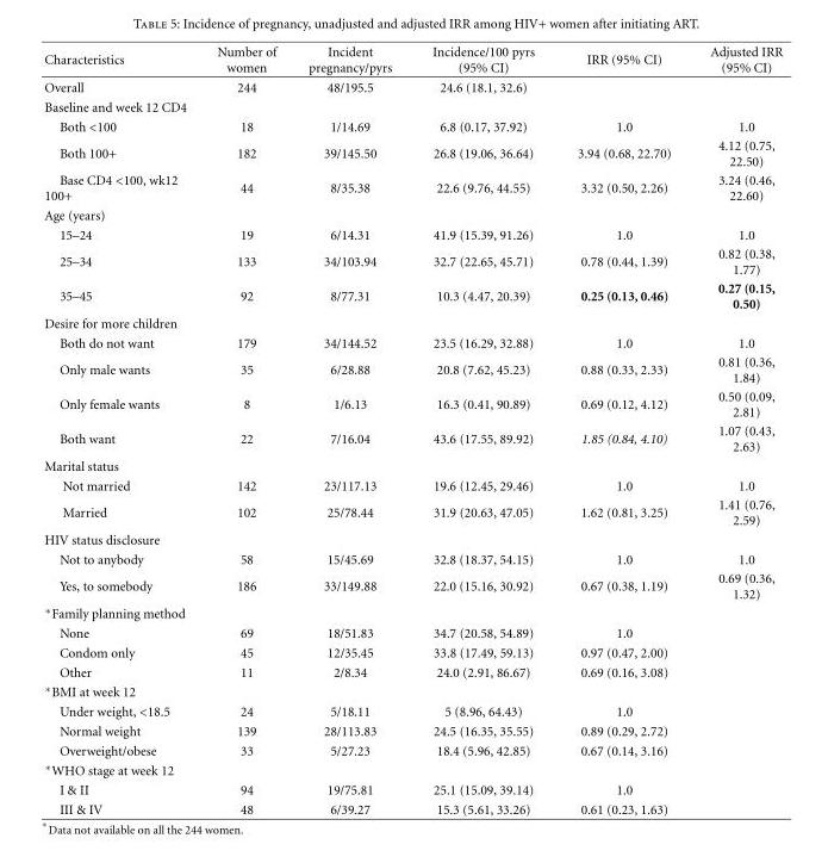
<table><thead><tr><td>Characteristics</td><td>Number of women</td><td>Incident pregnancy/pyrs</td><td>Incidence/100 pyrs (95% CI)</td><td>IRR (95% CI)</td><td>Adjusted IRR (95% CI)</td></tr></thead><tbody><tr><td>Overall</td><td>244</td><td>48/195.5</td><td>24.6 (18.1, 32.6)</td><td></td><td></td></tr><tr><td colspan="6">Baseline and week 12 CD4</td></tr><tr><td>Both &lt;100</td><td>18</td><td>1/14.69</td><td>6.8 (0.17, 37.92)</td><td>1.0</td><td>1.0</td></tr><tr><td>Both 100+</td><td>182</td><td>39/145.50</td><td>26.8 (19.06, 36.64)</td><td>3.94 (0.68, 22.70)</td><td>4.12 (0.75, 22.50)</td></tr><tr><td>Base CD4 &lt;100, wk12 100+</td><td>44</td><td>8/35.38</td><td>22.6 (9.76, 44.55)</td><td>3.32 (0.50, 2.26)</td><td>3.24 (0.46, 22.60)</td></tr><tr><td colspan="6">Age (years)</td></tr><tr><td>15–24</td><td>19</td><td>6/14.31</td><td>41.9 (15.39, 91.26)</td><td>1.0</td><td>1.0</td></tr><tr><td>25–34</td><td>133</td><td>34/103.94</td><td>32.7 (22.65, 45.71)</td><td>0.78 (0.44, 1.39)</td><td>0.82 (0.38, 1.77)</td></tr><tr><td>35–45</td><td>92</td><td>8/77.31</td><td>10.3 (4.47, 20.39)</td><td>0.25 (0.13, 0.46)</td><td>0.27 (0.15, 0.50)</td></tr><tr><td colspan="6">Desire for more children</td></tr><tr><td>Both do not want</td><td>179</td><td>34/144.52</td><td>23.5 (16.29, 32.88)</td><td>1.0</td><td>1.0</td></tr><tr><td>Only male wants</td><td>35</td><td>6/28.88</td><td>20.8 (7.62, 45.23)</td><td>0.88 (0.33, 2.33)</td><td>0.81 (0.36, 1.84)</td></tr><tr><td>Only female wants</td><td>8</td><td>1/6.13</td><td>16.3 (0.41, 90.89)</td><td>0.69 (0.12, 4.12)</td><td>0.50 (0.09, 2.81)</td></tr><tr><td>Both want</td><td>22</td><td>7/16.04</td><td>43.6 (17.55, 89.92)</td><td>1.85 (0.84, 4.10)</td><td>1.07 (0.43, 2.63)</td></tr><tr><td colspan="6">Marital status</td></tr><tr><td>Not married</td><td>142</td><td>23/117.13</td><td>19.6 (12.45, 29.46)</td><td>1.0</td><td>1.0</td></tr><tr><td>Married</td><td>102</td><td>25/78.44</td><td>31.9 (20.63, 47.05)</td><td>1.62 (0.81, 3.25)</td><td>1.41 (0.76, 2.59)</td></tr><tr><td colspan="6">HIV status disclosure</td></tr><tr><td>Not to anybody</td><td>58</td><td>15/45.69</td><td>32.8 (18.37, 54.15)</td><td>1.0</td><td>1.0</td></tr><tr><td>Yes, to somebody</td><td>186</td><td>33/149.88</td><td>22.0 (15.16, 30.92)</td><td>0.67 (0.38, 1.19)</td><td>0.69 (0.36, 1.32)</td></tr><tr><td colspan="6">∗Family planning method</td></tr><tr><td>None</td><td>69</td><td>18/51.83</td><td>34.7 (20.58, 54.89)</td><td>1.0</td><td></td></tr><tr><td>Condom only</td><td>45</td><td>12/35.45</td><td>33.8 (17.49, 59.13)</td><td>0.97 (0.47, 2.00)</td><td></td></tr><tr><td>Other</td><td>11</td><td>2/8.34</td><td>24.0 (2.91, 86.67)</td><td>0.69 (0.16, 3.08)</td><td></td></tr><tr><td colspan="6">∗BMI at week 12</td></tr><tr><td>Under weight, &lt;18.5</td><td>24</td><td>5/18.11</td><td>5 (8.96, 64.43)</td><td>1.0</td><td></td></tr><tr><td>Normal weight</td><td>139</td><td>28/113.83</td><td>24.5 (16.35, 35.55)</td><td>0.89 (0.29, 2.72)</td><td></td></tr><tr><td>Overweight/obese</td><td>33</td><td>5/27.23</td><td>18.4 (5.96, 42.85)</td><td>0.67 (0.14, 3.16)</td><td></td></tr><tr><td colspan="6">∗WHO stage at week 12</td></tr><tr><td>I &amp; II</td><td>94</td><td>19/75.81</td><td>25.1 (15.09, 39.14)</td><td>1.0</td><td></td></tr><tr><td>III &amp; IV</td><td>48</td><td>6/39.27</td><td>15.3 (5.61, 33.26)</td><td>0.61 (0.23, 1.63)</td><td></td></tr></tbody></table>